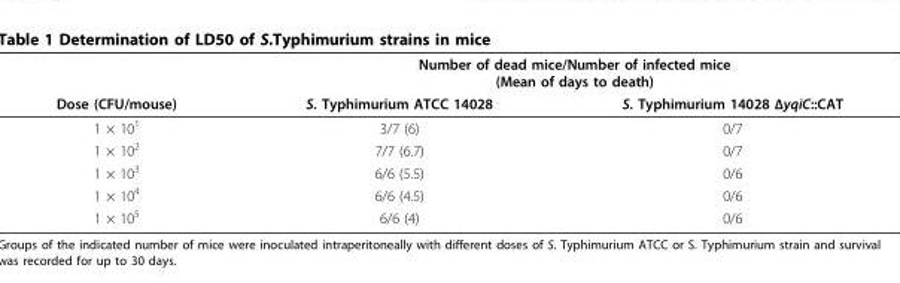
<table><thead><tr><td rowspan="2">Dose (CFU/mouse)</td><td colspan="2">Number of dead mice/Number of infected mice (Mean of days to death)</td></tr><tr><td>S. Typhimurium ATCC 14028</td><td>S. Typhimurium 14028 ΔyqiC::CAT</td></tr></thead><tbody><tr><td>1 × 10<sup>1</sup></td><td>3/7 (6)</td><td>0/7</td></tr><tr><td>1 × 10<sup>2</sup></td><td>7/7 (6.7)</td><td>0/7</td></tr><tr><td>1 × 10<sup>3</sup></td><td>6/6 (5.5)</td><td>0/6</td></tr><tr><td>1 × 10<sup>4</sup></td><td>6/6 (4.5)</td><td>0/6</td></tr><tr><td>1 × 10<sup>5</sup></td><td>6/6 (4)</td><td>0/6</td></tr></tbody></table>